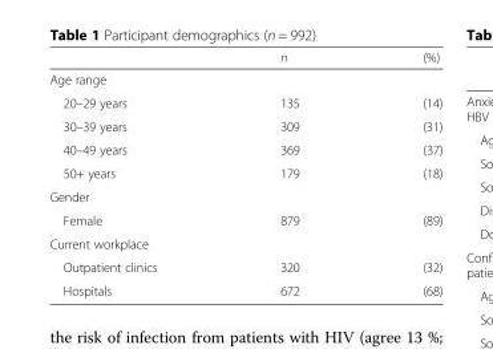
<table><thead><tr><td></td><td>n</td><td>(%)</td></tr></thead><tbody><tr><td colspan="3">Age range</td></tr><tr><td>20–29 years</td><td>135</td><td>(14)</td></tr><tr><td>30–39 years</td><td>309</td><td>(31)</td></tr><tr><td>40–49 years</td><td>369</td><td>(37)</td></tr><tr><td>50+ years</td><td>179</td><td>(18)</td></tr><tr><td colspan="3">Gender</td></tr><tr><td>Female</td><td>879</td><td>(89)</td></tr><tr><td colspan="3">Current workplace</td></tr><tr><td>Outpatient clinics</td><td>320</td><td>(32)</td></tr><tr><td>Hospitals</td><td>672</td><td>(68)</td></tr></tbody></table>